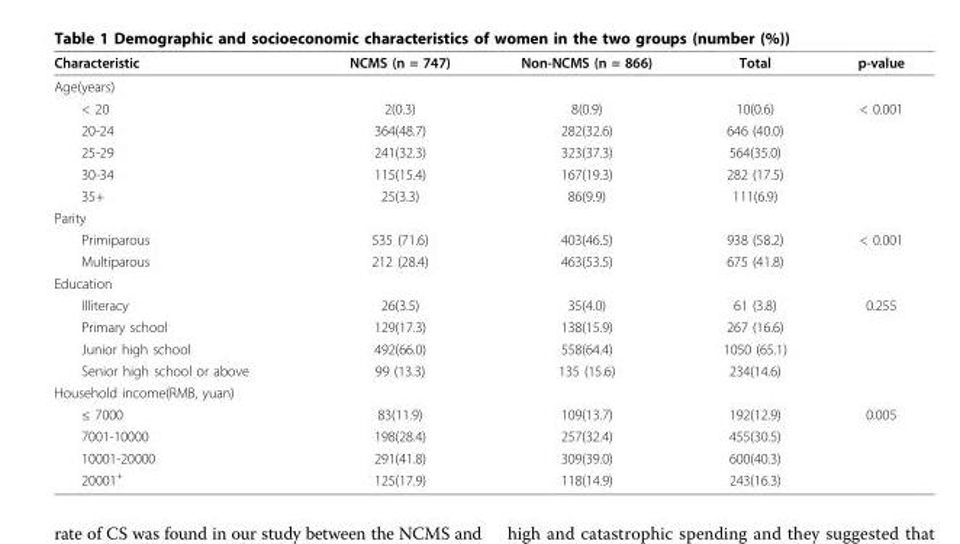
<table><thead><tr><td>Characteristic</td><td>NCMS (n = 747)</td><td>Non-NCMS (n = 866)</td><td>Total</td><td>p-value</td></tr></thead><tbody><tr><td colspan="5">Age(years)</td></tr><tr><td>&lt; 20</td><td>2(0.3)</td><td>8(0.9)</td><td>10(0.6)</td><td>&lt; 0.001</td></tr><tr><td>20-24</td><td>364(48.7)</td><td>282(32.6)</td><td>646 (40.0)</td><td></td></tr><tr><td>25-29</td><td>241(32.3)</td><td>323(37.3)</td><td>564(35.0)</td><td></td></tr><tr><td>30-34</td><td>115(15.4)</td><td>167(19.3)</td><td>282 (17.5)</td><td></td></tr><tr><td>35+</td><td>25(3.3)</td><td>86(9.9)</td><td>111(6.9)</td><td></td></tr><tr><td colspan="5">Parity</td></tr><tr><td>Primiparous</td><td>535 (71.6)</td><td>403(46.5)</td><td>938 (58.2)</td><td>&lt; 0.001</td></tr><tr><td>Multiparous</td><td>212 (28.4)</td><td>463(53.5)</td><td>675 (41.8)</td><td></td></tr><tr><td colspan="5">Education</td></tr><tr><td>Illiteracy</td><td>26(3.5)</td><td>35(4.0)</td><td>61 (3.8)</td><td>0.255</td></tr><tr><td>Primary school</td><td>129(17.3)</td><td>138(15.9)</td><td>267 (16.6)</td><td></td></tr><tr><td>Junior high school</td><td>492(66.0)</td><td>558(64.4)</td><td>1050 (65.1)</td><td></td></tr><tr><td>Senior high school or above</td><td>99 (13.3)</td><td>135 (15.6)</td><td>234(14.6)</td><td></td></tr><tr><td colspan="5">Household income(RMB, yuan)</td></tr><tr><td>≤ 7000</td><td>83(11.9)</td><td>109(13.7)</td><td>192(12.9)</td><td>0.005</td></tr><tr><td>7001-10000</td><td>198(28.4)</td><td>257(32.4)</td><td>455(30.5)</td><td></td></tr><tr><td>10001-20000</td><td>291(41.8)</td><td>309(39.0)</td><td>600(40.3)</td><td></td></tr><tr><td>20001<sup>+</sup></td><td>125(17.9)</td><td>118(14.9)</td><td>243(16.3)</td><td></td></tr></tbody></table>